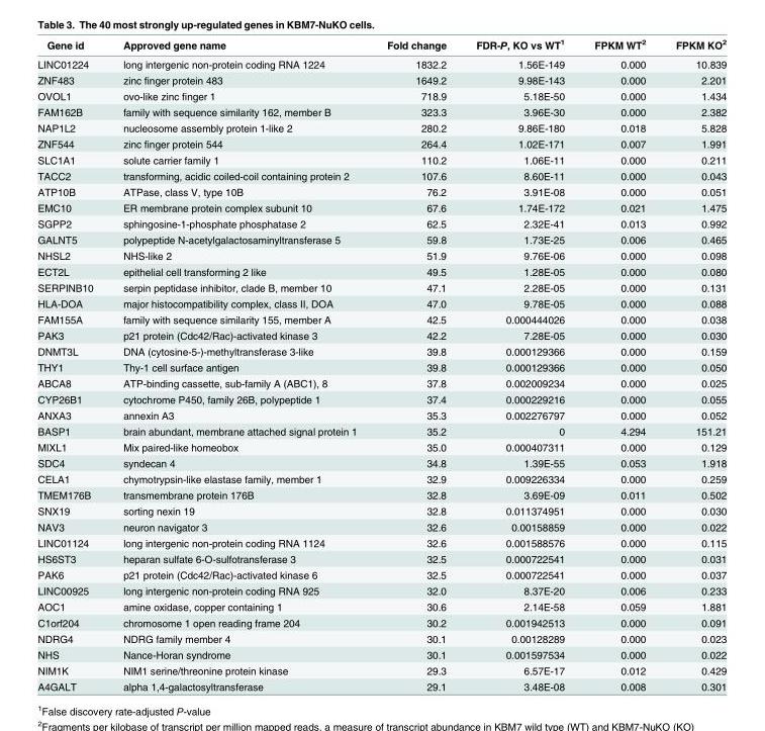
<table><thead><tr><td>Gene id</td><td>Approved gene name</td><td>Fold change</td><td>FDR-P, KO vs WT<sup>1</sup></td><td>FPKM WT<sup>2</sup></td><td>FPKM KO<sup>2</sup></td></tr></thead><tbody><tr><td>LINC01224</td><td>long intergenic non-protein coding RNA 1224</td><td>1832.2</td><td>1.56E-149</td><td>0.000</td><td>10.839</td></tr><tr><td>ZNF483</td><td>zinc finger protein 483</td><td>1649.2</td><td>9.98E-143</td><td>0.000</td><td>2.201</td></tr><tr><td>OVOL1</td><td>ovo-like zinc finger 1</td><td>718.9</td><td>5.18E-50</td><td>0.000</td><td>1.434</td></tr><tr><td>FAM162B</td><td>family with sequence similarity 162, member B</td><td>323.3</td><td>3.96E-30</td><td>0.000</td><td>2.382</td></tr><tr><td>NAP1L2</td><td>nucleosome assembly protein 1-like 2</td><td>280.2</td><td>9.86E-180</td><td>0.018</td><td>5.828</td></tr><tr><td>ZNF544</td><td>zinc finger protein 544</td><td>264.4</td><td>1.02E-171</td><td>0.007</td><td>1.991</td></tr><tr><td>SLC1A1</td><td>solute carrier family 1</td><td>110.2</td><td>1.06E-11</td><td>0.000</td><td>0.211</td></tr><tr><td>TACC2</td><td>transforming, acidic coiled-coil containing protein 2</td><td>107.6</td><td>8.60E-11</td><td>0.000</td><td>0.043</td></tr><tr><td>ATP10B</td><td>ATPase, class V, type 10B</td><td>76.2</td><td>3.91E-08</td><td>0.000</td><td>0.051</td></tr><tr><td>EMC10</td><td>ER membrane protein complex subunit 10</td><td>67.6</td><td>1.74E-172</td><td>0.021</td><td>1.475</td></tr><tr><td>SGPP2</td><td>sphingosine-1-phosphate phosphatase 2</td><td>62.5</td><td>2.32E-41</td><td>0.013</td><td>0.992</td></tr><tr><td>GALNT5</td><td>polypeptide N-acetylgalactosaminyltransferase 5</td><td>59.8</td><td>1.73E-25</td><td>0.006</td><td>0.465</td></tr><tr><td>NHSL2</td><td>NHS-like 2</td><td>51.9</td><td>9.76E-06</td><td>0.000</td><td>0.098</td></tr><tr><td>ECT2L</td><td>epithelial cell transforming 2 like</td><td>49.5</td><td>1.28E-05</td><td>0.000</td><td>0.080</td></tr><tr><td>SERPINB10</td><td>serpin peptidase inhibitor, clade B, member 10</td><td>47.1</td><td>2.28E-05</td><td>0.000</td><td>0.131</td></tr><tr><td>HLA-DOA</td><td>major histocompatibility complex, class II, DOA</td><td>47.0</td><td>9.78E-05</td><td>0.000</td><td>0.088</td></tr><tr><td>FAM155A</td><td>family with sequence similarity 155, member A</td><td>42.5</td><td>0.000444026</td><td>0.000</td><td>0.038</td></tr><tr><td>PAK3</td><td>p21 protein (Cdc42/Rac)-activated kinase 3</td><td>42.2</td><td>7.28E-05</td><td>0.000</td><td>0.030</td></tr><tr><td>DNMT3L</td><td>DNA (cytosine-5-)-methyltransferase 3-like</td><td>39.8</td><td>0.000129366</td><td>0.000</td><td>0.159</td></tr><tr><td>THY1</td><td>Thy-1 cell surface antigen</td><td>39.8</td><td>0.000129366</td><td>0.000</td><td>0.050</td></tr><tr><td>ABCA8</td><td>ATP-binding cassette, sub-family A (ABC1), 8</td><td>37.8</td><td>0.002009234</td><td>0.000</td><td>0.025</td></tr><tr><td>CYP26B1</td><td>cytochrome P450, family 26B, polypeptide 1</td><td>37.4</td><td>0.000229216</td><td>0.000</td><td>0.055</td></tr><tr><td>ANXA3</td><td>annexin A3</td><td>35.3</td><td>0.002276797</td><td>0.000</td><td>0.052</td></tr><tr><td>BASP1</td><td>brain abundant, membrane attached signal protein 1</td><td>35.2</td><td>0</td><td>4.294</td><td>151.21</td></tr><tr><td>MIXL1</td><td>Mix paired-like homeobox</td><td>35.0</td><td>0.000407311</td><td>0.000</td><td>0.129</td></tr><tr><td>SDC4</td><td>syndecan 4</td><td>34.8</td><td>1.39E-55</td><td>0.053</td><td>1.918</td></tr><tr><td>CELA1</td><td>chymotrypsin-like elastase family, member 1</td><td>32.9</td><td>0.009226334</td><td>0.000</td><td>0.259</td></tr><tr><td>TMEM176B</td><td>transmembrane protein 176B</td><td>32.8</td><td>3.69E-09</td><td>0.011</td><td>0.502</td></tr><tr><td>SNX19</td><td>sorting nexin 19</td><td>32.8</td><td>0.011374951</td><td>0.000</td><td>0.030</td></tr><tr><td>NAV3</td><td>neuron navigator 3</td><td>32.6</td><td>0.00158859</td><td>0.000</td><td>0.022</td></tr><tr><td>LINC01124</td><td>long intergenic non-protein coding RNA 1124</td><td>32.6</td><td>0.001588576</td><td>0.000</td><td>0.115</td></tr><tr><td>HS6ST3</td><td>heparan sulfate 6-O-sulfotransferase 3</td><td>32.5</td><td>0.000722541</td><td>0.000</td><td>0.031</td></tr><tr><td>PAK6</td><td>p21 protein (Cdc42/Rac)-activated kinase 6</td><td>32.5</td><td>0.000722541</td><td>0.000</td><td>0.037</td></tr><tr><td>LINC00925</td><td>long intergenic non-protein coding RNA 925</td><td>32.0</td><td>8.37E-20</td><td>0.006</td><td>0.233</td></tr><tr><td>AOC1</td><td>amine oxidase, copper containing 1</td><td>30.6</td><td>2.14E-58</td><td>0.059</td><td>1.881</td></tr><tr><td>C1orf204</td><td>chromosome 1 open reading frame 204</td><td>30.2</td><td>0.001942513</td><td>0.000</td><td>0.091</td></tr><tr><td>NDRG4</td><td>NDRG family member 4</td><td>30.1</td><td>0.00128289</td><td>0.000</td><td>0.023</td></tr><tr><td>NHS</td><td>Nance-Horan syndrome</td><td>30.1</td><td>0.001597534</td><td>0.000</td><td>0.022</td></tr><tr><td>NIM1K</td><td>NIM1 serine/threonine protein kinase</td><td>29.3</td><td>6.57E-17</td><td>0.012</td><td>0.429</td></tr><tr><td>A4GALT</td><td>alpha 1,4-galactosyltransferase</td><td>29.1</td><td>3.48E-08</td><td>0.008</td><td>0.301</td></tr></tbody></table>